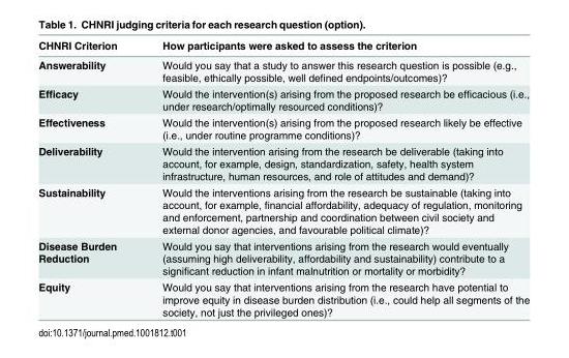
<table><thead><tr><td>CHNRI Criterion</td><td>How participants were asked to assess the criterion</td></tr></thead><tbody><tr><td>Answerability</td><td>Would you say that a study to answer this research question is possible (e.g., feasible, ethically possible, well defined endpoints/outcomes)?</td></tr><tr><td>Efficacy</td><td>Would the intervention(s) arising from the proposed research be efficacious (i.e., under research/optimally resourced conditions)?</td></tr><tr><td>Effectiveness</td><td>Would the intervention(s) arising from the proposed research likely be effective (i.e., under routine programme conditions)?</td></tr><tr><td>Deliverability</td><td>Would the intervention arising from the research be deliverable (taking into account, for example, design, standardization, safety, health system infrastructure, human resources, and role of attitudes and demand)?</td></tr><tr><td>Sustainability</td><td>Would the interventions arising from the research be sustainable (taking into account, for example, financial affordability, adequacy of regulation, monitoring and enforcement, partnership and coordination between civil society and external donor agencies, and favourable political climate)?</td></tr><tr><td>Disease Burden Reduction</td><td>Would you say that interventions arising from the research would eventually (assuming high deliverability, affordability and sustainability) contribute to a significant reduction in infant malnutrition or mortality or morbidity?</td></tr><tr><td>Equity</td><td>Would you say that interventions arising from the research have potential to improve equity in disease burden distribution (i.e., could help all segments of the society, not just the privileged ones)?</td></tr></tbody></table>